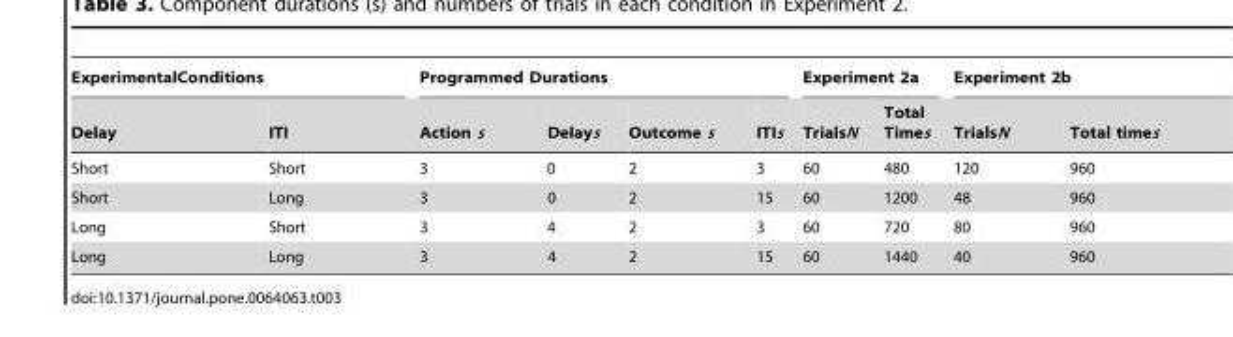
<table><thead><tr><td colspan="2">ExperimentalConditions</td><td colspan="4">Programmed Durations</td><td colspan="2">Experiment 2a</td><td colspan="2">Experiment 2b</td></tr><tr><td>Delay</td><td>ITI</td><td>Action s</td><td>Delays</td><td>Outcome s</td><td>ITIs</td><td>TrialsN</td><td>Total Times</td><td>TrialsN</td><td>Total times</td></tr></thead><tbody><tr><td>Short</td><td>Short</td><td>3</td><td>0</td><td>2</td><td>3</td><td>60</td><td>480</td><td>120</td><td>960</td></tr><tr><td>Short</td><td>Long</td><td>3</td><td>0</td><td>2</td><td>15</td><td>60</td><td>1200</td><td>48</td><td>960</td></tr><tr><td>Long</td><td>Short</td><td>3</td><td>4</td><td>2</td><td>3</td><td>60</td><td>720</td><td>80</td><td>960</td></tr><tr><td>Long</td><td>Long</td><td>3</td><td>4</td><td>2</td><td>15</td><td>60</td><td>1440</td><td>40</td><td>960</td></tr></tbody></table>